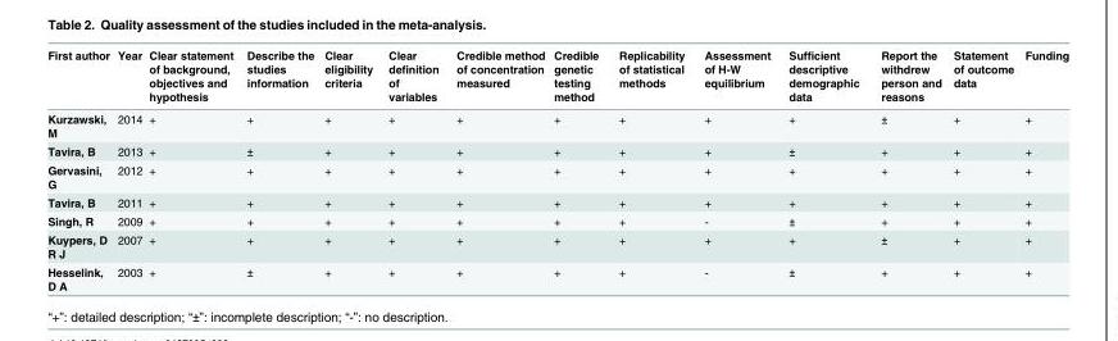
<table><thead><tr><td>First author</td><td>Year</td><td>Clear statement of background, objectives and hypothesis</td><td>Describe the studies information</td><td>Clear eligibility criteria</td><td>Clear definition of variables</td><td>Credible method of concentration measured</td><td>Credible genetic testing method</td><td>Replicability of statistical methods</td><td>Assessment of H-W equilibrium</td><td>Sufficient descriptive demographic data</td><td>Report the withdrew person and reasons</td><td>Statement of outcome data</td><td>Funding</td></tr></thead><tbody><tr><td>Kurzawski, M</td><td>2014</td><td>+</td><td>+</td><td>+</td><td>+</td><td>+</td><td>+</td><td>+</td><td>+</td><td>+</td><td>±</td><td>+</td><td>+</td></tr><tr><td>Tavira, B</td><td>2013</td><td>+</td><td>±</td><td>+</td><td>+</td><td>+</td><td>+</td><td>+</td><td>+</td><td>±</td><td>+</td><td>+</td><td>+</td></tr><tr><td>Gervasini, G</td><td>2012</td><td>+</td><td>+</td><td>+</td><td>+</td><td>+</td><td>+</td><td>+</td><td>+</td><td>+</td><td>+</td><td>+</td><td>+</td></tr><tr><td>Tavira, B</td><td>2011</td><td>+</td><td>+</td><td>+</td><td>+</td><td>+</td><td>+</td><td>+</td><td>+</td><td>+</td><td>+</td><td>+</td><td>+</td></tr><tr><td>Singh, R</td><td>2009</td><td>+</td><td>+</td><td>+</td><td>+</td><td>+</td><td>+</td><td>+</td><td>-</td><td>±</td><td>+</td><td>+</td><td>+</td></tr><tr><td>Kuypers, D R J</td><td>2007</td><td>+</td><td>+</td><td>+</td><td>+</td><td>+</td><td>+</td><td>+</td><td>+</td><td>+</td><td>±</td><td>+</td><td>+</td></tr><tr><td>Hesselink, D A</td><td>2003</td><td>+</td><td>±</td><td>+</td><td>+</td><td>+</td><td>+</td><td>+</td><td>-</td><td>±</td><td>+</td><td>+</td><td>+</td></tr></tbody></table>